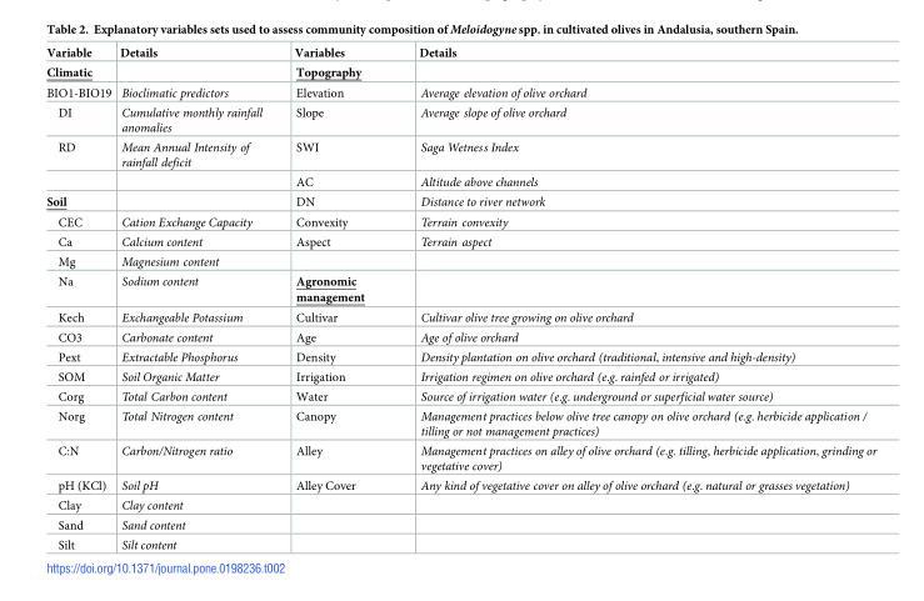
<table><thead><tr><td>Variable</td><td>Details</td><td>Variables</td><td>Details</td></tr></thead><tbody><tr><td>Climatic</td><td></td><td>Topography</td><td></td></tr><tr><td>BIO1-BIO19</td><td>Bioclimatic predictors</td><td>Elevation</td><td>Average elevation of olive orchard</td></tr><tr><td>DI</td><td>Cumulative monthly rainfall anomalies</td><td>Slope</td><td>Average slope of olive orchard</td></tr><tr><td rowspan="2">RD</td><td>Mean Annual Intensity of rainfall deficit</td><td>SWI</td><td>Saga Wetness Index</td></tr><tr><td></td><td>AC</td><td>Altitude above channels</td></tr><tr><td>Soil</td><td></td><td>DN</td><td>Distance to river network</td></tr><tr><td>CEC</td><td>Cation Exchange Capacity</td><td>Convexity</td><td>Terrain convexity</td></tr><tr><td>Ca</td><td>Calcium content</td><td>Aspect</td><td>Terrain aspect</td></tr><tr><td>Mg</td><td>Magnesium content</td><td></td><td></td></tr><tr><td>Na</td><td>Sodium content</td><td>Agronomic management</td><td></td></tr><tr><td>Kech</td><td>Exchangeable Potassium</td><td>Cultivar</td><td>Cultivar olive tree growing on olive orchard</td></tr><tr><td>CO3</td><td>Carbonate content</td><td>Age</td><td>Age of olive orchard</td></tr><tr><td>Pext</td><td>Extractable Phosphorus</td><td>Density</td><td>Density plantation on olive orchard (traditional, intensive and high-density)</td></tr><tr><td>SOM</td><td>Soil Organic Matter</td><td>Irrigation</td><td>Irrigation regimen on olive orchard (e.g. rainfed or irrigated)</td></tr><tr><td>Corg</td><td>Total Carbon content</td><td>Water</td><td>Source of irrigation water (e.g. underground or superficial water source)</td></tr><tr><td>Norg</td><td>Total Nitrogen content</td><td>Canopy</td><td>Management practices below olive tree canopy on olive orchard (e.g. herbicide application / tilling or not management practices)</td></tr><tr><td>C:N</td><td>Carbon/Nitrogen ratio</td><td>Alley</td><td>Management practices on alley of olive orchard (e.g. tilling, herbicide application, grinding or vegetative cover)</td></tr><tr><td>pH (KCl)</td><td>Soil pH</td><td>Alley Cover</td><td>Any kind of vegetative cover on alley of olive orchard (e.g. natural or grasses vegetation)</td></tr><tr><td>Clay</td><td>Clay content</td><td></td><td></td></tr><tr><td>Sand</td><td>Sand content</td><td></td><td></td></tr><tr><td>Silt</td><td>Silt content</td><td></td><td></td></tr></tbody></table>